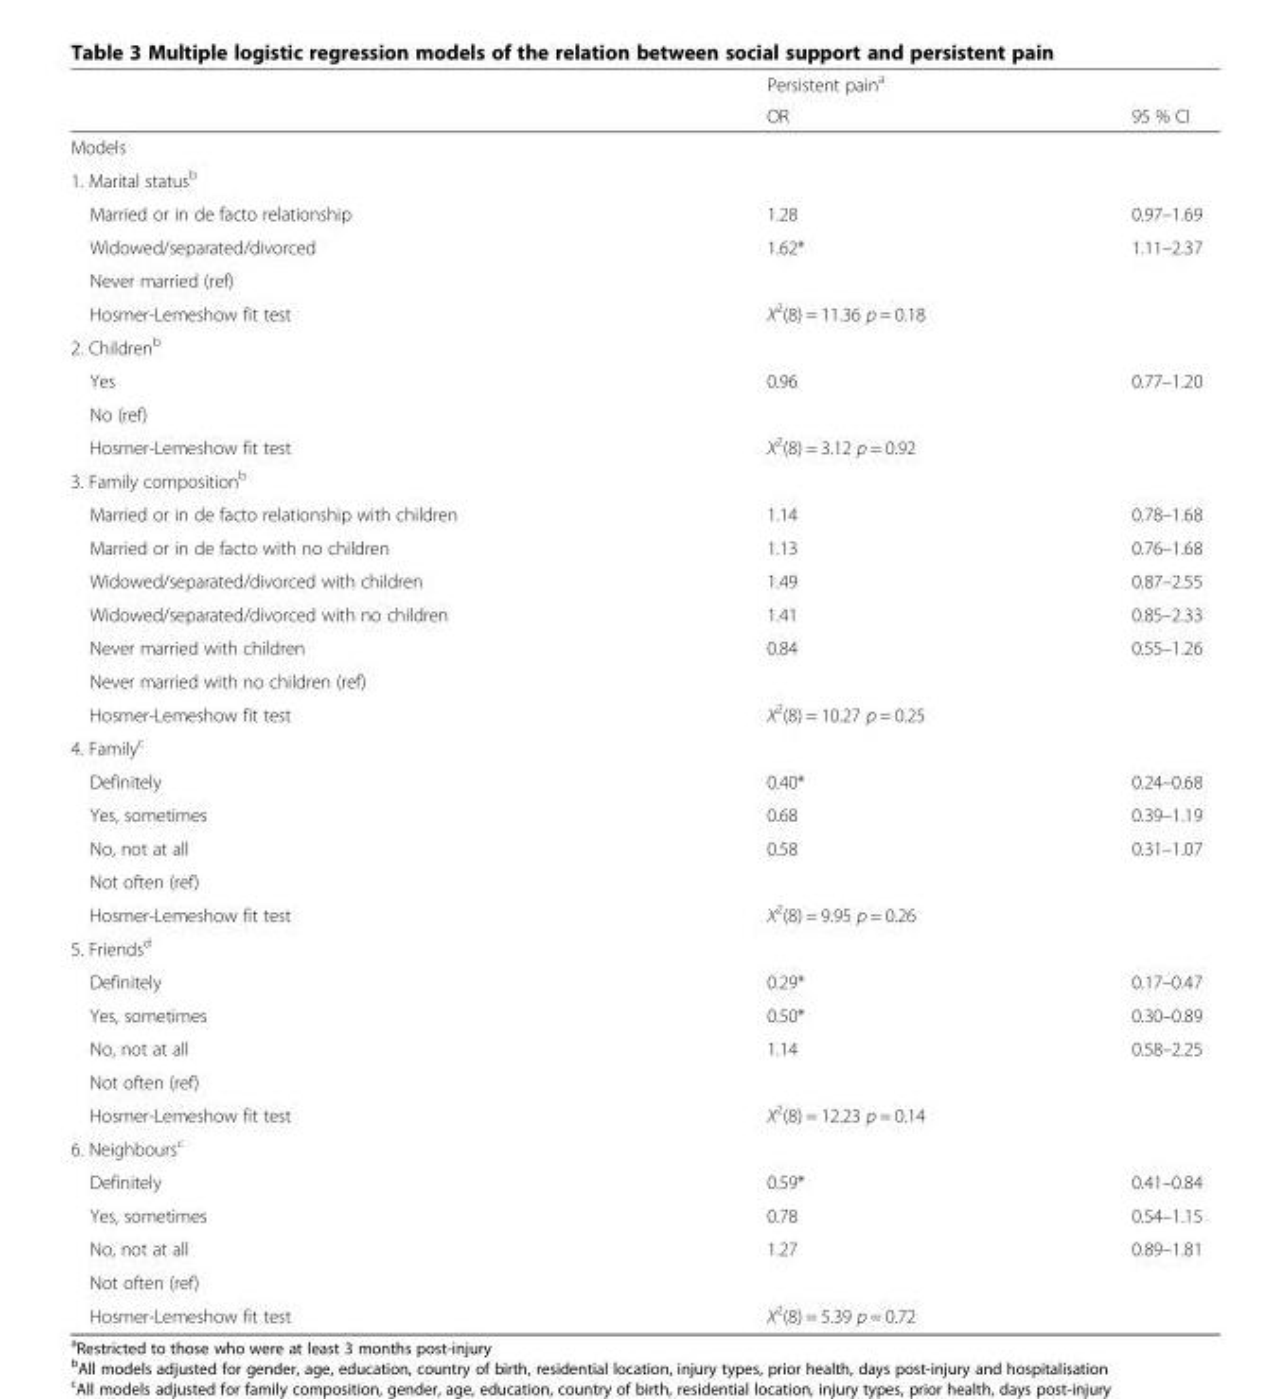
<table><thead><tr><td rowspan="2"></td><td colspan="2">Persistent pain<sup>a</sup></td></tr><tr><td>OR</td><td>95 % CI</td></tr></thead><tbody><tr><td colspan="3">Models</td></tr><tr><td colspan="3">1. Marital status<sup>b</sup></td></tr><tr><td>Married or in de facto relationship</td><td>1.28</td><td>0.97–1.69</td></tr><tr><td>Widowed/separated/divorced</td><td>1.62*</td><td>1.11–2.37</td></tr><tr><td colspan="3">Never married (ref)</td></tr><tr><td>Hosmer-Lemeshow fit test</td><td colspan="2">X<sup>2</sup>(8) = 11.36 p = 0.18</td></tr><tr><td colspan="3">2. Children<sup>b</sup></td></tr><tr><td>Yes</td><td>0.96</td><td>0.77–1.20</td></tr><tr><td colspan="3">No (ref)</td></tr><tr><td>Hosmer-Lemeshow fit test</td><td colspan="2">X<sup>2</sup>(8) = 3.12 p = 0.92</td></tr><tr><td colspan="3">3. Family composition<sup>b</sup></td></tr><tr><td>Married or in de facto relationship with children</td><td>1.14</td><td>0.78–1.68</td></tr><tr><td>Married or in de facto with no children</td><td>1.13</td><td>0.76–1.68</td></tr><tr><td>Widowed/separated/divorced with children</td><td>1.49</td><td>0.87–2.55</td></tr><tr><td>Widowed/separated/divorced with no children</td><td>1.41</td><td>0.85–2.33</td></tr><tr><td>Never married with children</td><td>0.84</td><td>0.55–1.26</td></tr><tr><td colspan="3">Never married with no children (ref)</td></tr><tr><td>Hosmer-Lemeshow fit test</td><td colspan="2">X<sup>2</sup>(8) = 10.27 p = 0.25</td></tr><tr><td colspan="3">4. Family<sup>c</sup></td></tr><tr><td>Definitely</td><td>0.40*</td><td>0.24–0.68</td></tr><tr><td>Yes, sometimes</td><td>0.68</td><td>0.39–1.19</td></tr><tr><td>No, not at all</td><td>0.58</td><td>0.31–1.07</td></tr><tr><td colspan="3">Not often (ref)</td></tr><tr><td>Hosmer-Lemeshow fit test</td><td colspan="2">X<sup>2</sup>(8) = 9.95 p = 0.26</td></tr><tr><td colspan="3">5. Friends<sup>d</sup></td></tr><tr><td>Definitely</td><td>0.29*</td><td>0.17–0.47</td></tr><tr><td>Yes, sometimes</td><td>0.50*</td><td>0.30–0.89</td></tr><tr><td>No, not at all</td><td>1.14</td><td>0.58–2.25</td></tr><tr><td colspan="3">Not often (ref)</td></tr><tr><td>Hosmer-Lemeshow fit test</td><td colspan="2">X<sup>2</sup>(8) = 12.23 p = 0.14</td></tr><tr><td colspan="3">6. Neighbours<sup>c</sup></td></tr><tr><td>Definitely</td><td>0.59*</td><td>0.41–0.84</td></tr><tr><td>Yes, sometimes</td><td>0.78</td><td>0.54–1.15</td></tr><tr><td>No, not at all</td><td>1.27</td><td>0.89–1.81</td></tr><tr><td colspan="3">Not often (ref)</td></tr><tr><td>Hosmer-Lemeshow fit test</td><td colspan="2">X<sup>2</sup>(8) = 5.39 p = 0.72</td></tr></tbody></table>